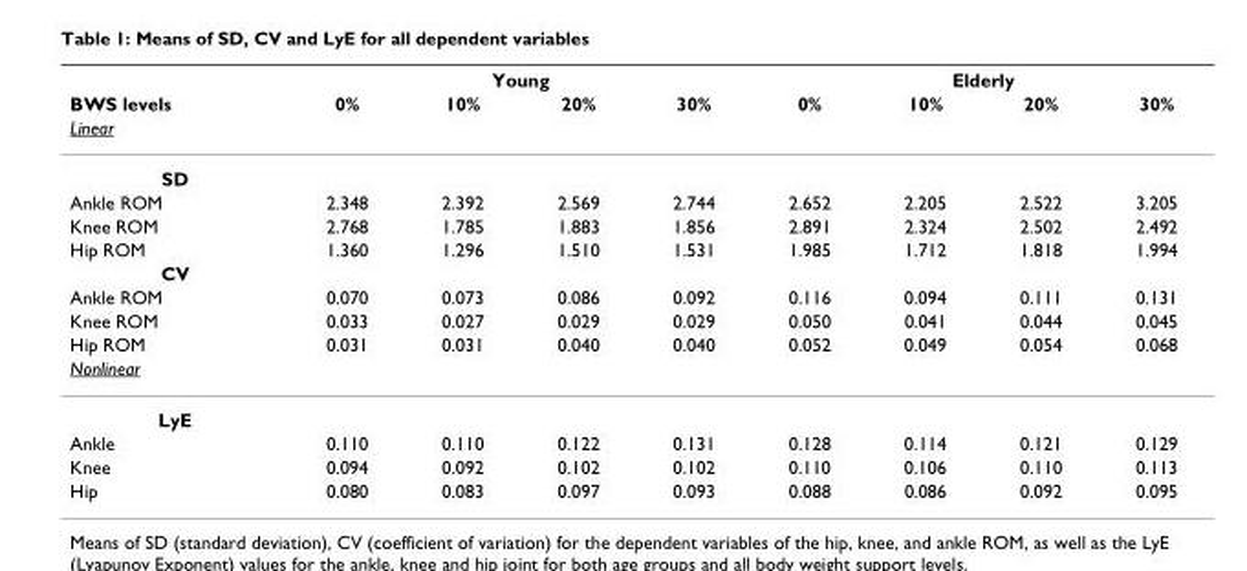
<table><thead><tr><td rowspan="3">BWS levels Linear</td><td colspan="4">Young</td><td colspan="4">Elderly</td></tr><tr><td rowspan="2">0%</td><td rowspan="2">10%</td><td rowspan="2">20%</td><td rowspan="2">30%</td><td rowspan="2">0%</td><td rowspan="2">10%</td><td rowspan="2">20%</td><td rowspan="2">30%</td></tr><tr></tr></thead><tbody><tr><td colspan="9">SD</td></tr><tr><td>Ankle ROM</td><td>2.348</td><td>2.392</td><td>2.569</td><td>2.744</td><td>2.652</td><td>2.205</td><td>2.522</td><td>3.205</td></tr><tr><td>Knee ROM</td><td>2.768</td><td>1.785</td><td>1.883</td><td>1.856</td><td>2.891</td><td>2.324</td><td>2.502</td><td>2.492</td></tr><tr><td>Hip ROM</td><td>1.360</td><td>1.296</td><td>1.510</td><td>1.531</td><td>1.985</td><td>1.712</td><td>1.818</td><td>1.994</td></tr><tr><td colspan="9">CV</td></tr><tr><td>Ankle ROM</td><td>0.070</td><td>0.073</td><td>0.086</td><td>0.092</td><td>0.116</td><td>0.094</td><td>0.111</td><td>0.131</td></tr><tr><td>Knee ROM</td><td>0.033</td><td>0.027</td><td>0.029</td><td>0.029</td><td>0.050</td><td>0.041</td><td>0.044</td><td>0.045</td></tr><tr><td>Hip ROM</td><td>0.031</td><td>0.031</td><td>0.040</td><td>0.040</td><td>0.052</td><td>0.049</td><td>0.054</td><td>0.068</td></tr><tr><td colspan="9">Nonlinear</td></tr><tr><td colspan="9">LyE</td></tr><tr><td>Ankle</td><td>0.110</td><td>0.110</td><td>0.122</td><td>0.131</td><td>0.128</td><td>0.114</td><td>0.121</td><td>0.129</td></tr><tr><td>Knee</td><td>0.094</td><td>0.092</td><td>0.102</td><td>0.102</td><td>0.110</td><td>0.106</td><td>0.110</td><td>0.113</td></tr><tr><td>Hip</td><td>0.080</td><td>0.083</td><td>0.097</td><td>0.093</td><td>0.088</td><td>0.086</td><td>0.092</td><td>0.095</td></tr></tbody></table>